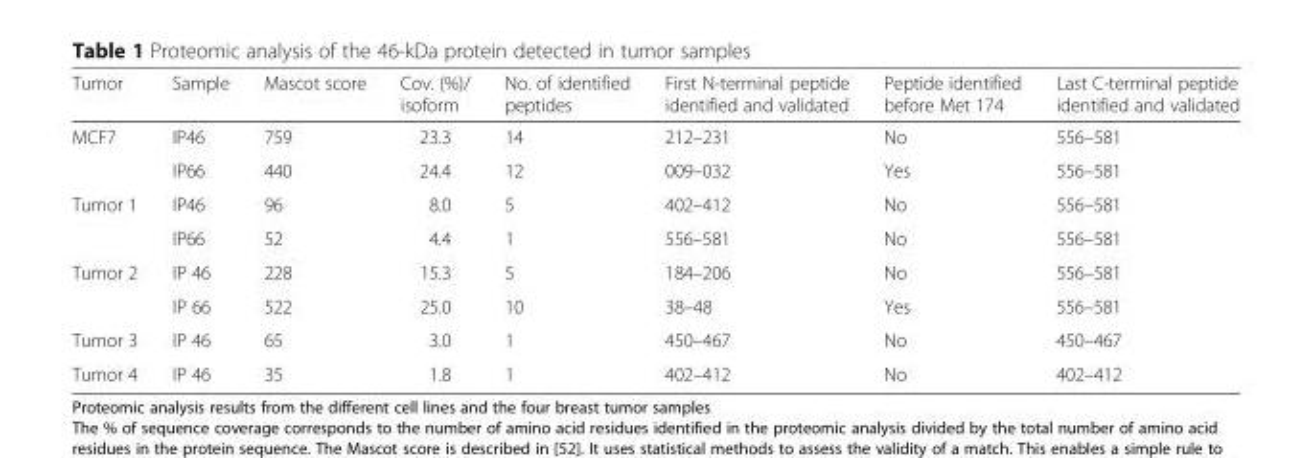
<table><thead><tr><td>Tumor</td><td>Sample</td><td>Mascot score</td><td>Cov. (%)/ isoform</td><td>No. of identified peptides</td><td>First N-terminal peptide identified and validated</td><td>Peptide identified before Met 174</td><td>Last C-terminal peptide identified and validated</td></tr></thead><tbody><tr><td rowspan="2">MCF7</td><td>IP46</td><td>759</td><td>23.3</td><td>14</td><td>212–231</td><td>No</td><td>556–581</td></tr><tr><td>IP66</td><td>440</td><td>24.4</td><td>12</td><td>009–032</td><td>Yes</td><td>556–581</td></tr><tr><td rowspan="2">Tumor 1</td><td>IP46</td><td>96</td><td>8.0</td><td>5</td><td>402–412</td><td>No</td><td>556–581</td></tr><tr><td>IP66</td><td>52</td><td>4.4</td><td>1</td><td>556–581</td><td>No</td><td>556–581</td></tr><tr><td rowspan="2">Tumor 2</td><td>IP 46</td><td>228</td><td>15.3</td><td>5</td><td>184–206</td><td>No</td><td>556–581</td></tr><tr><td>IP 66</td><td>522</td><td>25.0</td><td>10</td><td>38–48</td><td>Yes</td><td>556–581</td></tr><tr><td>Tumor 3</td><td>IP 46</td><td>65</td><td>3.0</td><td>1</td><td>450–467</td><td>No</td><td>450–467</td></tr><tr><td>Tumor 4</td><td>IP 46</td><td>35</td><td>1.8</td><td>1</td><td>402–412</td><td>No</td><td>402–412</td></tr></tbody></table>